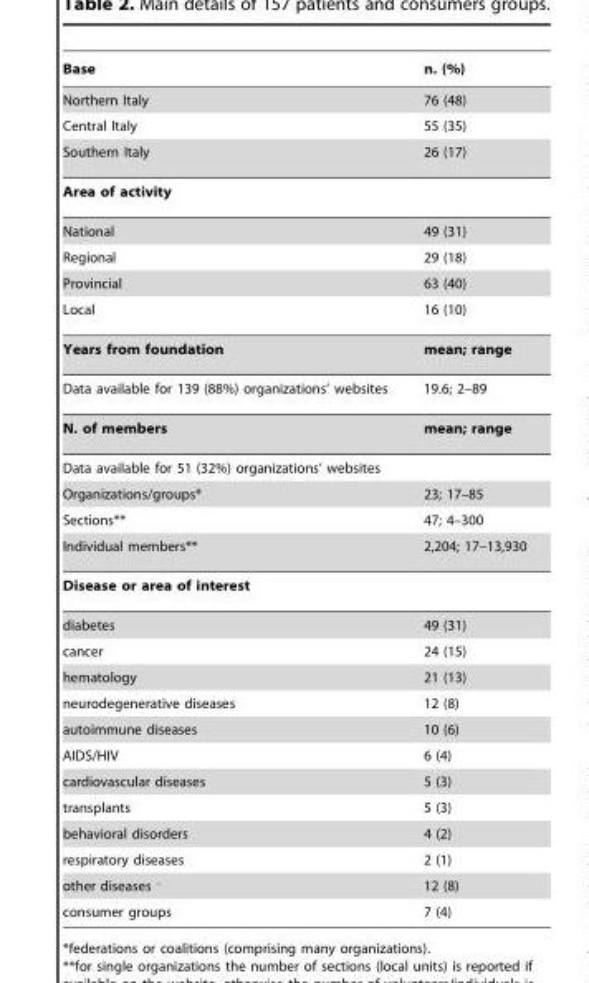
<table><thead><tr><td>Base</td><td>n. (%)</td></tr></thead><tbody><tr><td>Northern Italy</td><td>76 (48)</td></tr><tr><td>Central Italy</td><td>55 (35)</td></tr><tr><td>Southern Italy</td><td>26 (17)</td></tr><tr><td colspan="2">Area of activity</td></tr><tr><td>National</td><td>49 (31)</td></tr><tr><td>Regional</td><td>29 (18)</td></tr><tr><td>Provincial</td><td>63 (40)</td></tr><tr><td>Local</td><td>16 (10)</td></tr><tr><td>Years from foundation</td><td>mean; range</td></tr><tr><td>Data available for 139 (88%) organizations’ websites</td><td>19.6; 2–89</td></tr><tr><td>N. of members</td><td>mean; range</td></tr><tr><td colspan="2">Data available for 51 (32%) organizations’ websites</td></tr><tr><td>Organizations/groups*</td><td>23; 17–85</td></tr><tr><td>Sections**</td><td>47; 4–300</td></tr><tr><td>Individual members**</td><td>2,204; 17–13,930</td></tr><tr><td colspan="2">Disease or area of interest</td></tr><tr><td>diabetes</td><td>49 (31)</td></tr><tr><td>cancer</td><td>24 (15)</td></tr><tr><td>hematology</td><td>21 (13)</td></tr><tr><td>neurodegenerative diseases</td><td>12 (8)</td></tr><tr><td>autoimmune diseases</td><td>10 (6)</td></tr><tr><td>AIDS/HIV</td><td>6 (4)</td></tr><tr><td>cardiovascular diseases</td><td>5 (3)</td></tr><tr><td>transplants</td><td>5 (3)</td></tr><tr><td>behavioral disorders</td><td>4 (2)</td></tr><tr><td>respiratory diseases</td><td>2 (1)</td></tr><tr><td>other diseases ‘</td><td>12 (8)</td></tr><tr><td>consumer groups</td><td>7 (4)</td></tr></tbody></table>